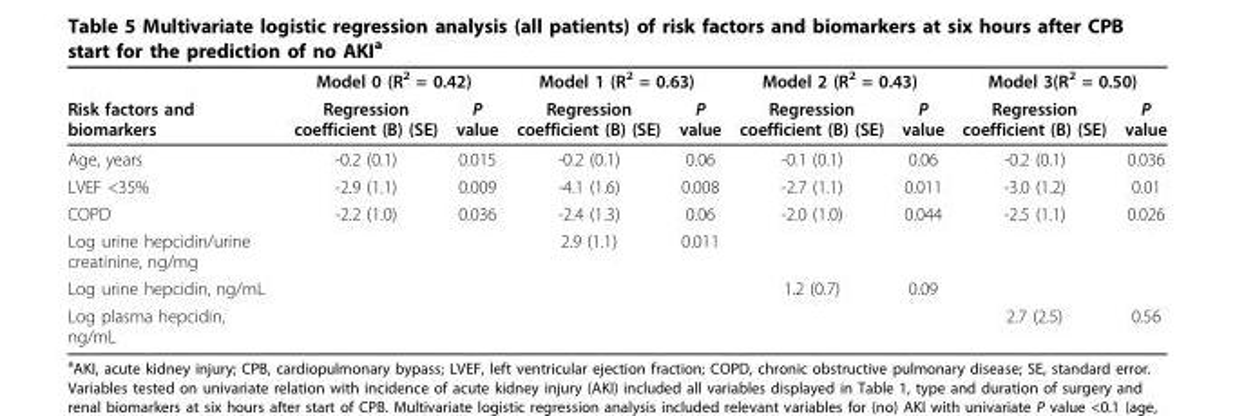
<table><thead><tr><td rowspan="2">Risk factors and biomarkers</td><td colspan="2">Model 0 (R<sup>2</sup> = 0.42)</td><td colspan="2">Model 1 (R<sup>2</sup> = 0.63)</td><td colspan="2">Model 2 (R<sup>2</sup> = 0.43)</td><td colspan="2">Model 3(R<sup>2</sup> = 0.50)</td></tr><tr><td>Regression coefficient (B) (SE)</td><td>P value</td><td>Regression coefficient (B) (SE)</td><td>P value</td><td>Regression coefficient (B) (SE)</td><td>P value</td><td>Regression coefficient (B) (SE)</td><td>P value</td></tr></thead><tbody><tr><td>Age, years</td><td>-0.2 (0.1)</td><td>0.015</td><td>-0.2 (0.1)</td><td>0.06</td><td>-0.1 (0.1)</td><td>0.06</td><td>-0.2 (0.1)</td><td>0.036</td></tr><tr><td>LVEF &lt;35%</td><td>-2.9 (1.1)</td><td>0.009</td><td>-4.1 (1.6)</td><td>0.008</td><td>-2.7 (1.1)</td><td>0.011</td><td>-3.0 (1.2)</td><td>0.01</td></tr><tr><td>COPD</td><td>-2.2 (1.0)</td><td>0.036</td><td>-2.4 (1.3)</td><td>0.06</td><td>-2.0 (1.0)</td><td>0.044</td><td>-2.5 (1.1)</td><td>0.026</td></tr><tr><td>Log urine hepcidin/urine creatinine, ng/mg</td><td></td><td></td><td>2.9 (1.1)</td><td>0.011</td><td></td><td></td><td></td><td></td></tr><tr><td>Log urine hepcidin, ng/mL</td><td></td><td></td><td></td><td></td><td>1.2 (0.7)</td><td>0.09</td><td></td><td></td></tr><tr><td>Log plasma hepcidin, ng/mL</td><td></td><td></td><td></td><td></td><td></td><td></td><td>2.7 (2.5)</td><td>0.56</td></tr></tbody></table>